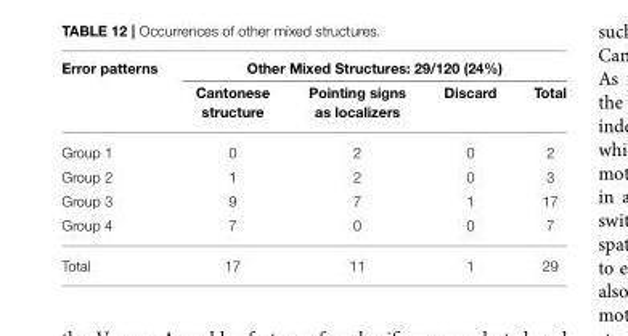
<table><thead><tr><td rowspan="2">Error patterns</td><td colspan="4">Other Mixed Structures: 29/120 (24%)</td></tr><tr><td>Cantonese structure</td><td>Pointing signs as localizers</td><td>Discard</td><td>Total</td></tr></thead><tbody><tr><td>Group 1</td><td>0</td><td>2</td><td>0</td><td>2</td></tr><tr><td>Group 2</td><td>1</td><td>2</td><td>0</td><td>3</td></tr><tr><td>Group 3</td><td>9</td><td>7</td><td>1</td><td>17</td></tr><tr><td>Group 4</td><td>7</td><td>0</td><td>0</td><td>7</td></tr><tr><td>Total</td><td>17</td><td>11</td><td>1</td><td>29</td></tr></tbody></table>